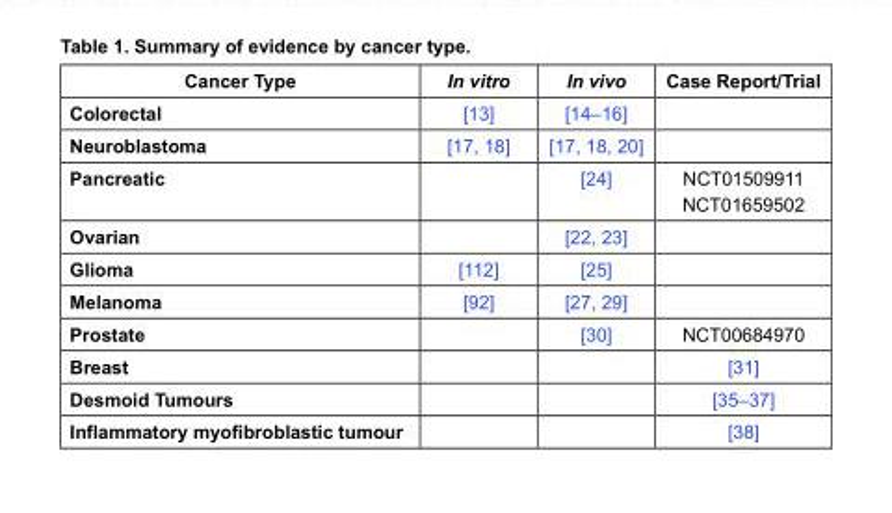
<table><thead><tr><td>Cancer Type</td><td>In vitro</td><td>In vivo</td><td>Case Report/Trial</td></tr></thead><tbody><tr><td>Colorectal</td><td>[13]</td><td>[14–16]</td><td></td></tr><tr><td>Neuroblastoma</td><td>[17, 18]</td><td>[17, 18, 20]</td><td></td></tr><tr><td>Pancreatic</td><td></td><td>[24]</td><td>NCT01509911 NCT01659502</td></tr><tr><td>Ovarian</td><td></td><td>[22, 23]</td><td></td></tr><tr><td>Glioma</td><td>[112]</td><td>[25]</td><td></td></tr><tr><td>Melanoma</td><td>[92]</td><td>[27, 29]</td><td></td></tr><tr><td>Prostate</td><td></td><td>[30]</td><td>NCT00684970</td></tr><tr><td>Breast</td><td></td><td></td><td>[31]</td></tr><tr><td>Desmoid Tumours</td><td></td><td></td><td>[35–37]</td></tr><tr><td>Inflammatory myofibroblastic tumour</td><td></td><td></td><td>[38]</td></tr></tbody></table>